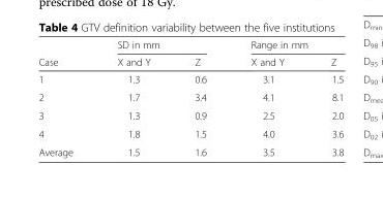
<table><thead><tr><td rowspan="2">Case</td><td colspan="2">SD in mm</td><td colspan="2">Range in mm</td></tr><tr><td>X and Y</td><td>Z</td><td>X and Y</td><td>Z</td></tr></thead><tbody><tr><td>1</td><td>1.3</td><td>0.6</td><td>3.1</td><td>1.5</td></tr><tr><td>2</td><td>1.7</td><td>3.4</td><td>4.1</td><td>8.1</td></tr><tr><td>3</td><td>1.3</td><td>0.9</td><td>2.5</td><td>2.0</td></tr><tr><td>4</td><td>1.8</td><td>1.5</td><td>4.0</td><td>3.6</td></tr><tr><td>Average</td><td>1.5</td><td>1.6</td><td>3.5</td><td>3.8</td></tr></tbody></table>